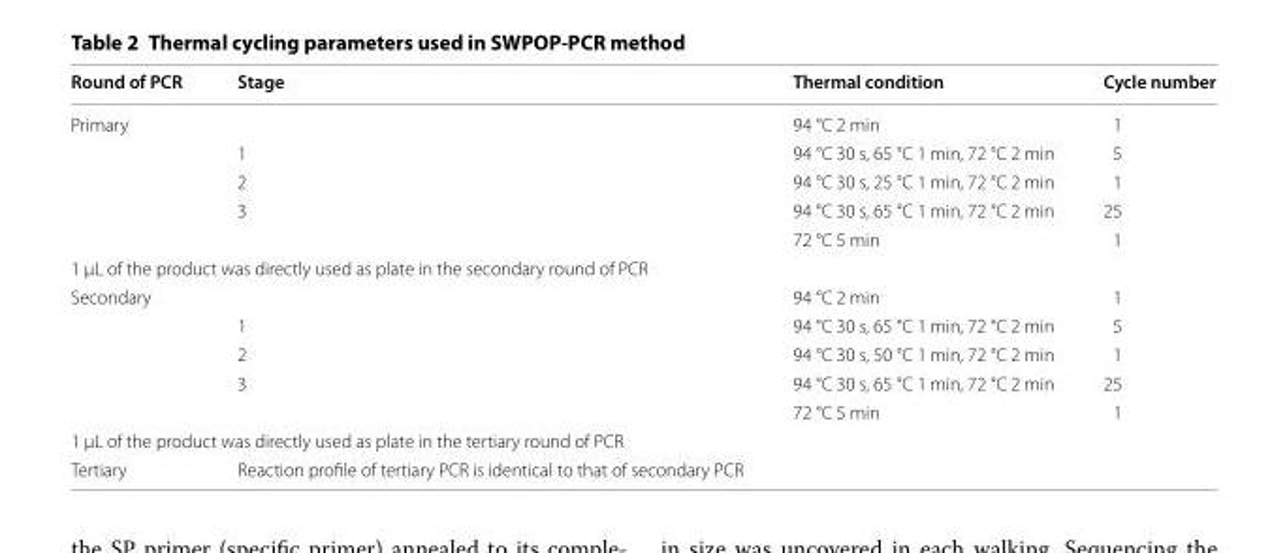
<table><thead><tr><td>Round of PCR</td><td>Stage</td><td>Thermal condition</td><td>Cycle number</td></tr></thead><tbody><tr><td rowspan="5">Primary</td><td></td><td>94 °C 2 min</td><td>1</td></tr><tr><td>1</td><td>94 °C 30 s, 65 °C 1 min, 72 °C 2 min</td><td>5</td></tr><tr><td>2</td><td>94 °C 30 s, 25 °C 1 min, 72 °C 2 min</td><td>1</td></tr><tr><td>3</td><td>94 °C 30 s, 65 °C 1 min, 72 °C 2 min</td><td>25</td></tr><tr><td></td><td>72 °C 5 min</td><td>1</td></tr><tr><td colspan="4">1 μL of the product was directly used as plate in the secondary round of PCR</td></tr><tr><td rowspan="5">Secondary</td><td></td><td>94 °C 2 min</td><td>1</td></tr><tr><td>1</td><td>94 °C 30 s, 65 °C 1 min, 72 °C 2 min</td><td>5</td></tr><tr><td>2</td><td>94 °C 30 s, 50 °C 1 min, 72 °C 2 min</td><td>1</td></tr><tr><td>3</td><td>94 °C 30 s, 65 °C 1 min, 72 °C 2 min</td><td>25</td></tr><tr><td></td><td>72 °C 5 min</td><td>1</td></tr><tr><td colspan="4">1 μL of the product was directly used as plate in the tertiary round of PCR</td></tr><tr><td>Tertiary</td><td colspan="3">Reaction profile of tertiary PCR is identical to that of secondary PCR</td></tr></tbody></table>